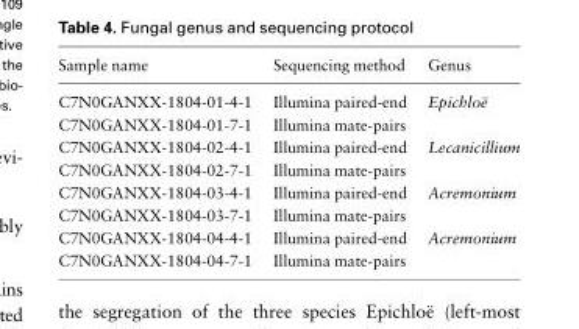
<table><thead><tr><td>Sample name</td><td>Sequencing method</td><td>Genus</td></tr></thead><tbody><tr><td>C7N0GANXX-1804-01-4-1</td><td>Illumina paired-end</td><td>Epichloe¨</td></tr><tr><td>C7N0GANXX-1804-01-7-1</td><td>Illumina mate-pairs</td><td></td></tr><tr><td>C7N0GANXX-1804-02-4-1</td><td>Illumina paired-end</td><td>Lecanicillium</td></tr><tr><td>C7N0GANXX-1804-02-7-1</td><td>Illumina mate-pairs</td><td></td></tr><tr><td>C7N0GANXX-1804-03-4-1</td><td>Illumina paired-end</td><td>Acremonium</td></tr><tr><td>C7N0GANXX-1804-03-7-1</td><td>Illumina mate-pairs</td><td></td></tr><tr><td>C7N0GANXX-1804-04-4-1</td><td>Illumina paired-end</td><td>Acremonium</td></tr><tr><td>C7N0GANXX-1804-04-7-1</td><td>Illumina mate-pairs</td><td></td></tr></tbody></table>